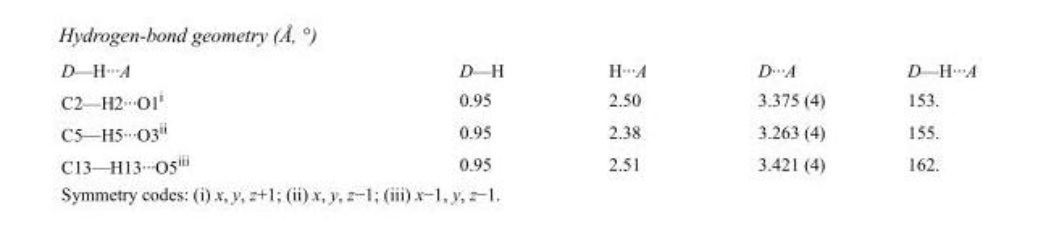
<table><tbody><tr><td>D—H···A</td><td>D—H</td><td>H···A</td><td>D···A</td><td>D—H···A</td></tr><tr><td>C2—H2···O1<sup>i</sup></td><td>0.95</td><td>2.50</td><td>3.375 (4)</td><td>153.</td></tr><tr><td>C5—H5···O3<sup>ii</sup></td><td>0.95</td><td>2.38</td><td>3.263 (4)</td><td>155.</td></tr><tr><td>C13—H13···O5<sup>iii</sup></td><td>0.95</td><td>2.51</td><td>3.421 (4)</td><td>162.</td></tr></tbody></table>